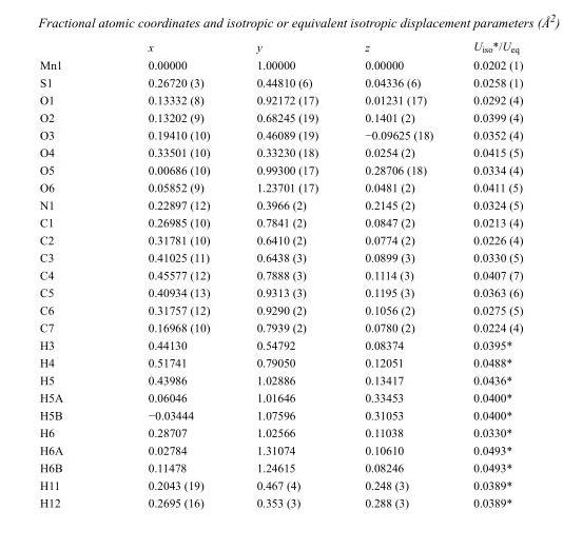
<table><thead><tr><td></td><td>x</td><td>y</td><td>z</td><td>U<sub>iso</sub>*/U<sub>eq</sub></td></tr></thead><tbody><tr><td>Mn1</td><td>0.00000</td><td>1.00000</td><td>0.00000</td><td>0.0202 (1)</td></tr><tr><td>S1</td><td>0.26720 (3)</td><td>0.44810 (6)</td><td>0.04336 (6)</td><td>0.0258 (1)</td></tr><tr><td>O1</td><td>0.13332 (8)</td><td>0.92172 (17)</td><td>0.01231 (17)</td><td>0.0292 (4)</td></tr><tr><td>O2</td><td>0.13202 (9)</td><td>0.68245 (19)</td><td>0.1401 (2)</td><td>0.0399 (4)</td></tr><tr><td>O3</td><td>0.19410 (10)</td><td>0.46089 (19)</td><td>−0.09625 (18)</td><td>0.0352 (4)</td></tr><tr><td>O4</td><td>0.33501 (10)</td><td>0.33230 (18)</td><td>0.0254 (2)</td><td>0.0415 (5)</td></tr><tr><td>O5</td><td>0.00686 (10)</td><td>0.99300 (17)</td><td>0.28706 (18)</td><td>0.0334 (4)</td></tr><tr><td>O6</td><td>0.05852 (9)</td><td>1.23701 (17)</td><td>0.0481 (2)</td><td>0.0411 (5)</td></tr><tr><td>N1</td><td>0.22897 (12)</td><td>0.3966 (2)</td><td>0.2145 (2)</td><td>0.0324 (5)</td></tr><tr><td>C1</td><td>0.26985 (10)</td><td>0.7841 (2)</td><td>0.0847 (2)</td><td>0.0213 (4)</td></tr><tr><td>C2</td><td>0.31781 (10)</td><td>0.6410 (2)</td><td>0.0774 (2)</td><td>0.0226 (4)</td></tr><tr><td>C3</td><td>0.41025 (11)</td><td>0.6438 (3)</td><td>0.0899 (3)</td><td>0.0330 (5)</td></tr><tr><td>C4</td><td>0.45577 (12)</td><td>0.7888 (3)</td><td>0.1114 (3)</td><td>0.0407 (7)</td></tr><tr><td>C5</td><td>0.40934 (13)</td><td>0.9313 (3)</td><td>0.1195 (3)</td><td>0.0363 (6)</td></tr><tr><td>C6</td><td>0.31757 (12)</td><td>0.9290 (2)</td><td>0.1056 (2)</td><td>0.0275 (5)</td></tr><tr><td>C7</td><td>0.16968 (10)</td><td>0.7939 (2)</td><td>0.0780 (2)</td><td>0.0224 (4)</td></tr><tr><td>H3</td><td>0.44130</td><td>0.54792</td><td>0.08374</td><td>0.0395*</td></tr><tr><td>H4</td><td>0.51741</td><td>0.79050</td><td>0.12051</td><td>0.0488*</td></tr><tr><td>H5</td><td>0.43986</td><td>1.02886</td><td>0.13417</td><td>0.0436*</td></tr><tr><td>H5A</td><td>0.06046</td><td>1.01646</td><td>0.33453</td><td>0.0400*</td></tr><tr><td>H5B</td><td>−0.03444</td><td>1.07596</td><td>0.31053</td><td>0.0400*</td></tr><tr><td>H6</td><td>0.28707</td><td>1.02566</td><td>0.11038</td><td>0.0330*</td></tr><tr><td>H6A</td><td>0.02784</td><td>1.31074</td><td>0.10610</td><td>0.0493*</td></tr><tr><td>H6B</td><td>0.11478</td><td>1.24615</td><td>0.08246</td><td>0.0493*</td></tr><tr><td>H11</td><td>0.2043 (19)</td><td>0.467 (4)</td><td>0.248 (3)</td><td>0.0389*</td></tr><tr><td>H12</td><td>0.2695 (16)</td><td>0.353 (3)</td><td>0.288 (3)</td><td>0.0389*</td></tr></tbody></table>